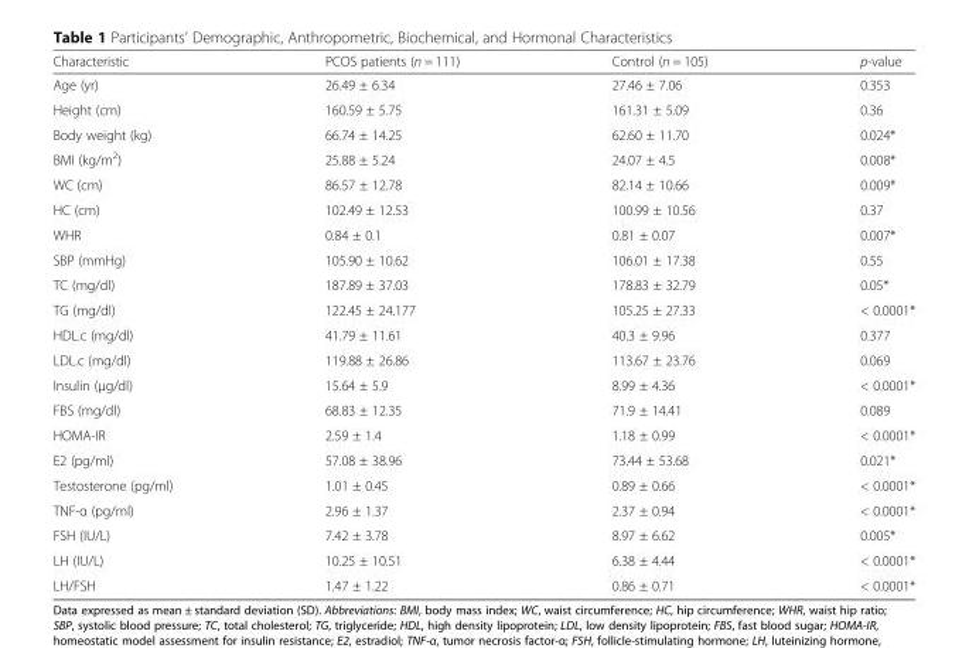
<table><thead><tr><td>Characteristic</td><td>PCOS patients (n = 111)</td><td>Control (n = 105)</td><td>p-value</td></tr></thead><tbody><tr><td>Age (yr)</td><td>26.49 ± 6.34</td><td>27.46 ± 7.06</td><td>0.353</td></tr><tr><td>Height (cm)</td><td>160.59 ± 5.75</td><td>161.31 ± 5.09</td><td>0.36</td></tr><tr><td>Body weight (kg)</td><td>66.74 ± 14.25</td><td>62.60 ± 11.70</td><td>0.024*</td></tr><tr><td>BMI (kg/m<sup>2</sup>)</td><td>25.88 ± 5.24</td><td>24.07 ± 4.5</td><td>0.008*</td></tr><tr><td>WC (cm)</td><td>86.57 ± 12.78</td><td>82.14 ± 10.66</td><td>0.009*</td></tr><tr><td>HC (cm)</td><td>102.49 ± 12.53</td><td>100.99 ± 10.56</td><td>0.37</td></tr><tr><td>WHR</td><td>0.84 ± 0.1</td><td>0.81 ± 0.07</td><td>0.007*</td></tr><tr><td>SBP (mmHg)</td><td>105.90 ± 10.62</td><td>106.01 ± 17.38</td><td>0.55</td></tr><tr><td>TC (mg/dl)</td><td>187.89 ± 37.03</td><td>178.83 ± 32.79</td><td>0.05*</td></tr><tr><td>TG (mg/dl)</td><td>122.45 ± 24.177</td><td>105.25 ± 27.33</td><td>&lt; 0.0001*</td></tr><tr><td>HDL.c (mg/dl)</td><td>41.79 ± 11.61</td><td>40.3 ± 9.96</td><td>0.377</td></tr><tr><td>LDL.c (mg/dl)</td><td>119.88 ± 26.86</td><td>113.67 ± 23.76</td><td>0.069</td></tr><tr><td>Insulin (μg/dl)</td><td>15.64 ± 5.9</td><td>8.99 ± 4.36</td><td>&lt; 0.0001*</td></tr><tr><td>FBS (mg/dl)</td><td>68.83 ± 12.35</td><td>71.9 ± 14.41</td><td>0.089</td></tr><tr><td>HOMA-IR</td><td>2.59 ± 1.4</td><td>1.18 ± 0.99</td><td>&lt; 0.0001*</td></tr><tr><td>E2 (pg/ml)</td><td>57.08 ± 38.96</td><td>73.44 ± 53.68</td><td>0.021*</td></tr><tr><td>Testosterone (pg/ml)</td><td>1.01 ± 0.45</td><td>0.89 ± 0.66</td><td>&lt; 0.0001*</td></tr><tr><td>TNF-α (pg/ml)</td><td>2.96 ± 1.37</td><td>2.37 ± 0.94</td><td>&lt; 0.0001*</td></tr><tr><td>FSH (IU/L)</td><td>7.42 ± 3.78</td><td>8.97 ± 6.62</td><td>0.005*</td></tr><tr><td>LH (IU/L)</td><td>10.25 ± 10.51</td><td>6.38 ± 4.44</td><td>&lt; 0.0001*</td></tr><tr><td>LH/FSH</td><td>1.47 ± 1.22</td><td>0.86 ± 0.71</td><td>&lt; 0.0001*</td></tr></tbody></table>